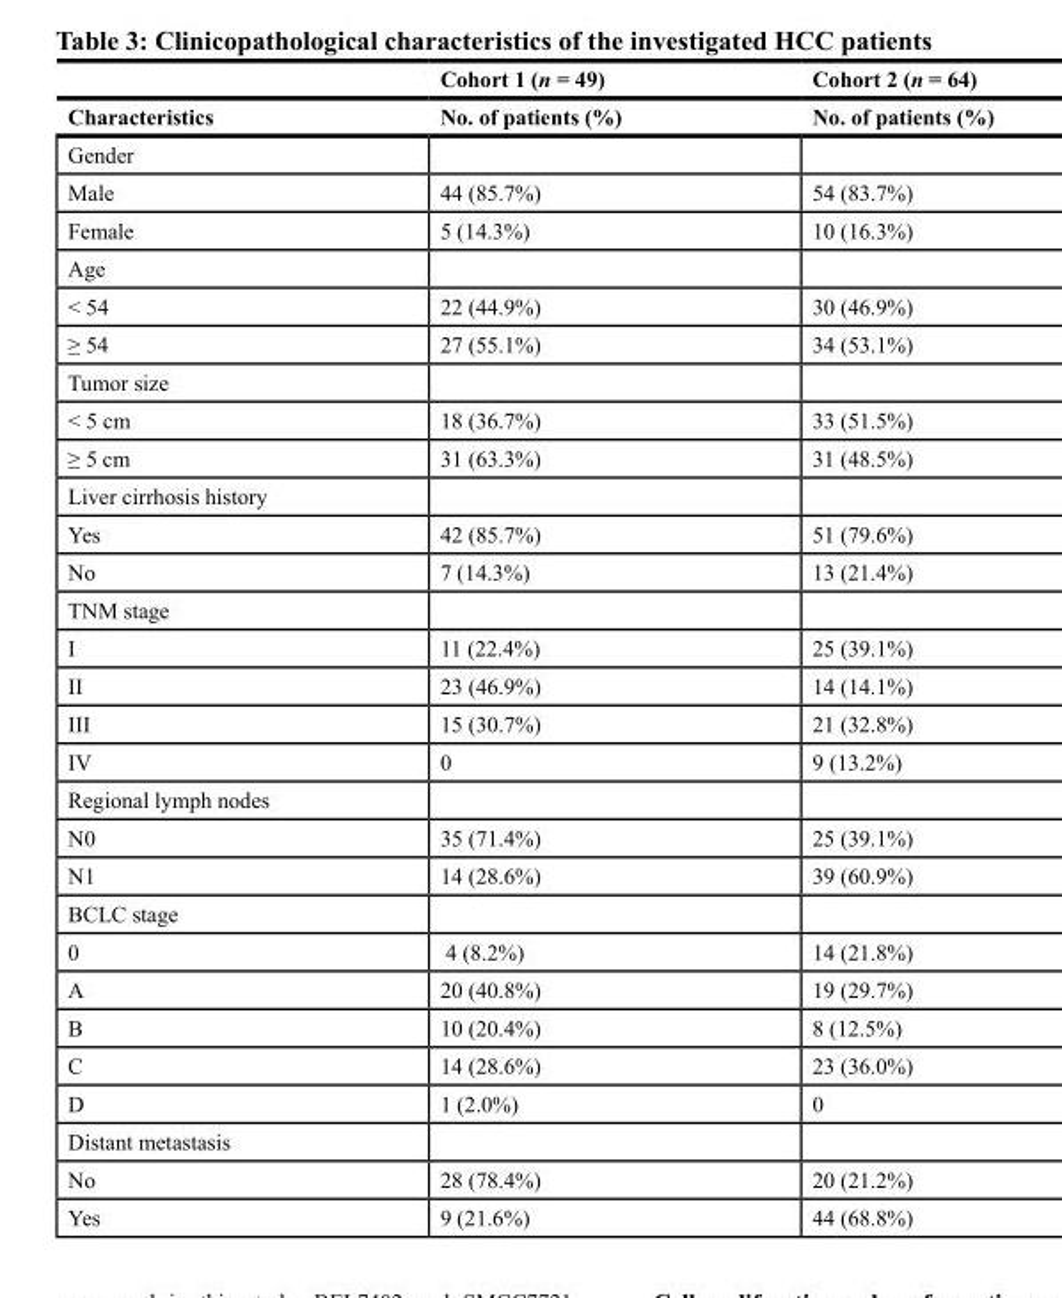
<table><thead><tr><td rowspan="2">Characteristics</td><td rowspan="2">Cohort 1 (n = 49) No. of patients (%)</td><td rowspan="2">Cohort 2 (n = 64) No. of patients (%)</td></tr><tr></tr></thead><tbody><tr><td colspan="3">Gender</td></tr><tr><td>Male</td><td>44 (85.7%)</td><td>54 (83.7%)</td></tr><tr><td>Female</td><td>5 (14.3%)</td><td>10 (16.3%)</td></tr><tr><td colspan="3">Age</td></tr><tr><td>&lt; 54</td><td>22 (44.9%)</td><td>30 (46.9%)</td></tr><tr><td>≥ 54</td><td>27 (55.1%)</td><td>34 (53.1%)</td></tr><tr><td colspan="3">Tumor size</td></tr><tr><td>&lt; 5 cm</td><td>18 (36.7%)</td><td>33 (51.5%)</td></tr><tr><td>≥ 5 cm</td><td>31 (63.3%)</td><td>31 (48.5%)</td></tr><tr><td colspan="3">Liver cirrhosis history</td></tr><tr><td>Yes</td><td>42 (85.7%)</td><td>51 (79.6%)</td></tr><tr><td>No</td><td>7 (14.3%)</td><td>13 (21.4%)</td></tr><tr><td colspan="3">TNM stage</td></tr><tr><td>I</td><td>11 (22.4%)</td><td>25 (39.1%)</td></tr><tr><td>II</td><td>23 (46.9%)</td><td>14 (14.1%)</td></tr><tr><td>III</td><td>15 (30.7%)</td><td>21 (32.8%)</td></tr><tr><td>IV</td><td>0</td><td>9 (13.2%)</td></tr><tr><td colspan="3">Regional lymph nodes</td></tr><tr><td>N0</td><td>35 (71.4%)</td><td>25 (39.1%)</td></tr><tr><td>N1</td><td>14 (28.6%)</td><td>39 (60.9%)</td></tr><tr><td colspan="3">BCLC stage</td></tr><tr><td>0</td><td>4 (8.2%)</td><td>14 (21.8%)</td></tr><tr><td>A</td><td>20 (40.8%)</td><td>19 (29.7%)</td></tr><tr><td>B</td><td>10 (20.4%)</td><td>8 (12.5%)</td></tr><tr><td>C</td><td>14 (28.6%)</td><td>23 (36.0%)</td></tr><tr><td>D</td><td>1 (2.0%)</td><td>0</td></tr><tr><td colspan="3">Distant metastasis</td></tr><tr><td>No</td><td>28 (78.4%)</td><td>20 (21.2%)</td></tr><tr><td>Yes</td><td>9 (21.6%)</td><td>44 (68.8%)</td></tr></tbody></table>